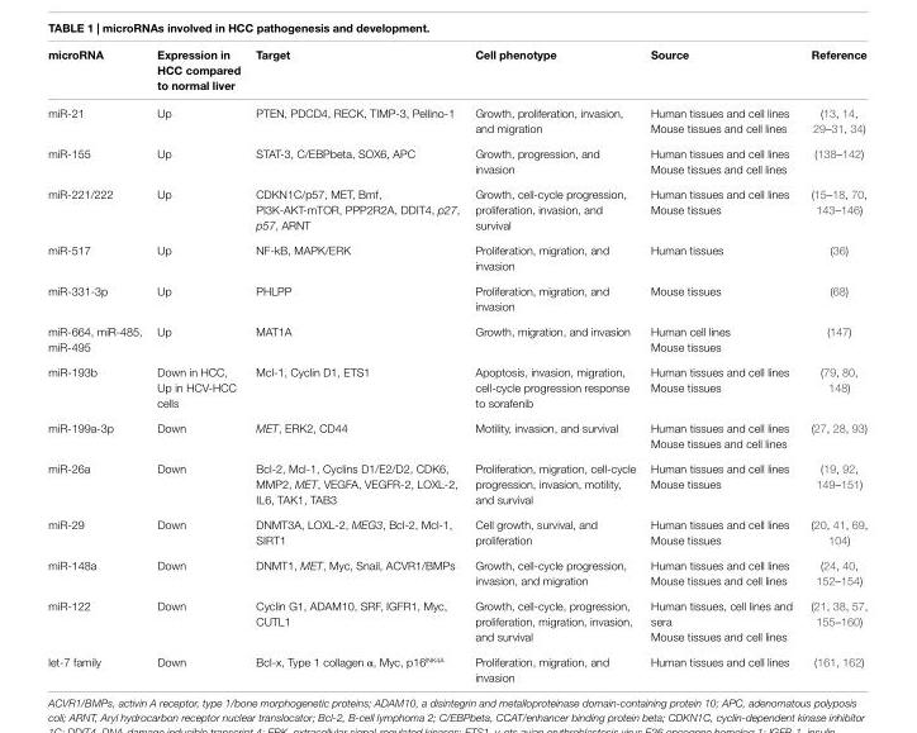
<table><thead><tr><td>microRnA</td><td>expression in Hcc compared to normal liver</td><td>Target</td><td>cell phenotype</td><td>source</td><td>Reference</td></tr></thead><tbody><tr><td rowspan="2">miR-21</td><td rowspan="2">Up</td><td rowspan="2">PTEN, PDCD4, RECK, TIMP-3, Pellino-1</td><td rowspan="2">Growth, proliferation, invasion, and migration</td><td>Human tissues and cell lines</td><td rowspan="2">(13, 14, 29–31, 34)</td></tr><tr><td>Mouse tissues and cell lines</td></tr><tr><td rowspan="2">miR-155</td><td rowspan="2">Up</td><td rowspan="2">STAT-3, C/EBPbeta, SOX6, APC</td><td rowspan="2">Growth, progression, and invasion</td><td>Human tissues and cell lines</td><td rowspan="2">(138–142)</td></tr><tr><td>Mouse tissues and cell lines</td></tr><tr><td rowspan="2">miR-221/222</td><td rowspan="2">Up</td><td rowspan="2">CDKN1C/p57, MET, Bmf, PI3K-AKT-mTOR, PPP2R2A, DDIT4, p27, p57, ARNT</td><td rowspan="2">Growth, cell-cycle progression, proliferation, invasion, and survival</td><td>Human tissues and cell lines</td><td rowspan="2">(15–18, 70, 143–146)</td></tr><tr><td>Mouse tissues</td></tr><tr><td>miR-517</td><td>Up</td><td>NF-kB, MAPK/ERK</td><td>Proliferation, migration, and invasion</td><td>Human tissues</td><td>(36)</td></tr><tr><td>miR-331-3p</td><td>Up</td><td>PHLPP</td><td>Proliferation, migration, and invasion</td><td>Mouse tissues</td><td>(68)</td></tr><tr><td rowspan="2">miR-664, miR-485, miR-495</td><td rowspan="2">Up</td><td rowspan="2">MAT1A</td><td rowspan="2">Growth, migration, and invasion</td><td>Human cell lines</td><td rowspan="2">(147)</td></tr><tr><td>Mouse tissues</td></tr><tr><td rowspan="2">miR-193b</td><td rowspan="2">Down in HCC, Up in HCV-HCC cells</td><td rowspan="2">Mcl-1, Cyclin D1, ETS1</td><td rowspan="2">Apoptosis, invasion, migration, cell-cycle progression response to sorafenib</td><td>Human tissues and cell lines</td><td rowspan="2">(79, 80, 148)</td></tr><tr><td>Mouse tissues</td></tr><tr><td rowspan="2">miR-199a-3p</td><td rowspan="2">Down</td><td rowspan="2">MET, ERK2, CD44</td><td rowspan="2">Motility, invasion, and survival</td><td>Human tissues and cell lines</td><td rowspan="2">(27, 28, 93)</td></tr><tr><td>Mouse tissues and cell lines</td></tr><tr><td rowspan="2">miR-26a</td><td rowspan="2">Down</td><td rowspan="2">Bcl-2, Mcl-1, Cyclins D1/E2/D2, CDK6, MMP2, MET, VEGFA, VEGFR-2, LOXL-2, IL6, TAK1, TAB3</td><td rowspan="2">Proliferation, migration, cell-cycle progression, invasion, motility, and survival</td><td>Human tissues and cell lines</td><td rowspan="2">(19, 92, 149–151)</td></tr><tr><td>Mouse tissues</td></tr><tr><td rowspan="2">miR-29</td><td rowspan="2">Down</td><td rowspan="2">DNMT3A, LOXL-2, MEG3, Bcl-2, Mcl-1, SIRT1</td><td rowspan="2">Cell growth, survival, and proliferation</td><td>Human tissues and cell lines</td><td rowspan="2">(20, 41, 69, 104)</td></tr><tr><td>Mouse tissues</td></tr><tr><td rowspan="2">miR-148a</td><td rowspan="2">Down</td><td rowspan="2">DNMT1, MET, Myc, Snail, ACVR1/BMPs</td><td rowspan="2">Growth, cell-cycle progression, invasion, and migration</td><td>Human tissues and cell lines</td><td rowspan="2">(24, 40, 152–154)</td></tr><tr><td>Mouse tissues and cell lines</td></tr><tr><td rowspan="2">miR-122</td><td rowspan="2">Down</td><td rowspan="2">Cyclin G1, ADAM10, SRF, IGFR1, Myc, CUTL1</td><td rowspan="2">Growth, cell-cycle, progression, proliferation, migration, invasion, and survival</td><td>Human tissues, cell lines and sera</td><td rowspan="2">(21, 38, 57, 155–160)</td></tr><tr><td>Mouse tissues and cell lines</td></tr><tr><td>let-7 family</td><td>Down</td><td>Bcl-x, Type 1 collagen α, Myc, p16<sup>INK4A</sup></td><td>Proliferation, migration, and invasion</td><td>Human tissues and cell lines</td><td>(161, 162)</td></tr></tbody></table>